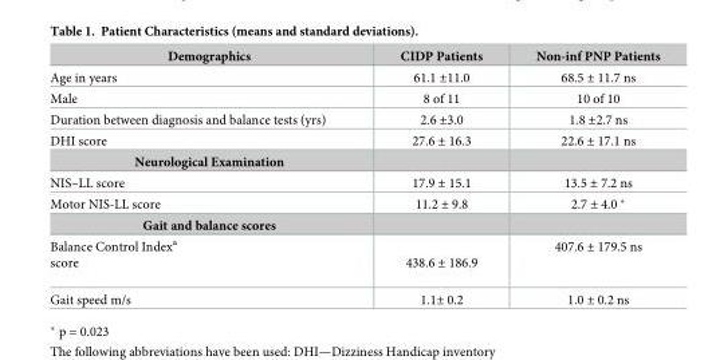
<table><thead><tr><td>Demographics</td><td>CIDP Patients</td><td>Non-inf PNP Patients</td></tr></thead><tbody><tr><td>Age in years</td><td>61.1 ±11.0</td><td>68.5 ± 11.7 ns</td></tr><tr><td>Male</td><td>8 of 11</td><td>10 of 10</td></tr><tr><td>Duration between diagnosis and balance tests (yrs)</td><td>2.6 ±3.0</td><td>1.8 ±2.7 ns</td></tr><tr><td>DHI score</td><td>27.6 ± 16.3</td><td>22.6 ± 17.1 ns</td></tr><tr><td colspan="3">Neurological Examination</td></tr><tr><td>NIS–LL score</td><td>17.9 ± 15.1</td><td>13.5 ± 7.2 ns</td></tr><tr><td>Motor NIS-LL score</td><td>11.2 ± 9.8</td><td>2.7 ± 4.0 *</td></tr><tr><td colspan="3">Gait and balance scores</td></tr><tr><td>Balance Control Index<sup>a</sup> score</td><td>438.6 ± 186.9</td><td>407.6 ± 179.5 ns</td></tr><tr><td>Gait speed m/s</td><td>1.1± 0.2</td><td>1.0 ± 0.2 ns</td></tr></tbody></table>